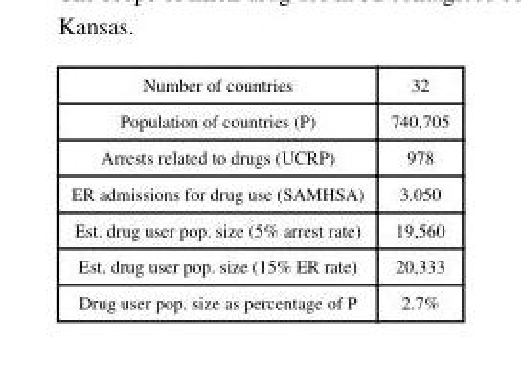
<table><tbody><tr><td>Number of countries</td><td>32</td></tr><tr><td>Population of countries (P)</td><td>740,705</td></tr><tr><td>Arrests related to drugs (UCRP)</td><td>978</td></tr><tr><td>ER admissions for drug use (SAMHSA)</td><td>3.050</td></tr><tr><td>Est. drug user pop. size (5% arrest rate)</td><td>19,560</td></tr><tr><td>Est. drug user pop. size (15% ER rate)</td><td>20,333</td></tr><tr><td>Drug user pop. size as percentage of P</td><td>2.7%</td></tr></tbody></table>